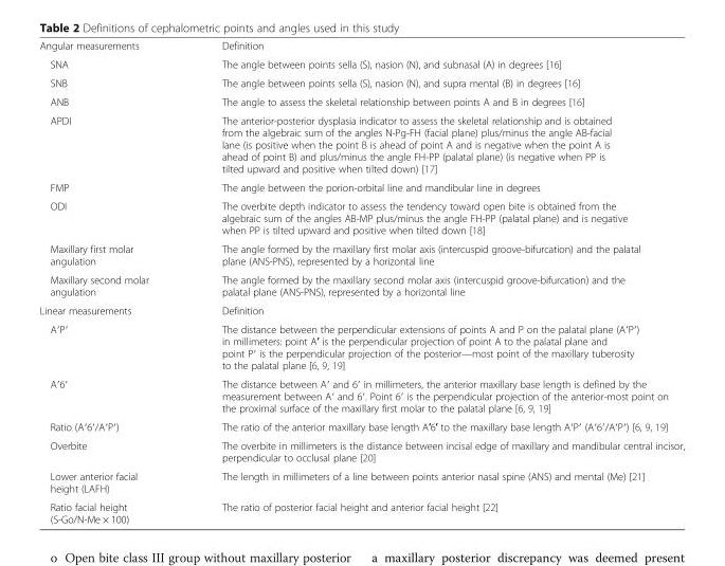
<table><tbody><tr><td>Angular measurements</td><td>Definition</td></tr><tr><td>SNA</td><td>The angle between points sella (S), nasion (N), and subnasal (A) in degrees [16]</td></tr><tr><td>SNB</td><td>The angle between points sella (S), nasion (N), and supra mental (B) in degrees [16]</td></tr><tr><td>ANB</td><td>The angle to assess the skeletal relationship between points A and B in degrees [16]</td></tr><tr><td>APDI</td><td>The anterior-posterior dysplasia indicator to assess the skeletal relationship and is obtained from the algebraic sum of the angles N-Pg-FH (facial plane) plus/minus the angle AB-facial lane (is positive when the point B is ahead of point A and is negative when the point A is ahead of point B) and plus/minus the angle FH-PP (palatal plane) (is negative when PP is tilted upward and positive when tilted down) [17]</td></tr><tr><td>FMP</td><td>The angle between the porion-orbital line and mandibular line in degrees</td></tr><tr><td>ODI</td><td>The overbite depth indicator to assess the tendency toward open bite is obtained from the algebraic sum of the angles AB-MP plus/minus the angle FH-PP (palatal plane) and is negative when PP is tilted upward and positive when tilted down [18]</td></tr><tr><td>Maxillary first molar angulation</td><td>The angle formed by the maxillary first molar axis (intercuspid groove-bifurcation) and the palatal plane (ANS-PNS), represented by a horizontal line</td></tr><tr><td>Maxillary second molar angulation</td><td>The angle formed by the maxillary second molar axis (intercuspid groove-bifurcation) and the palatal plane (ANS-PNS), represented by a horizontal line</td></tr><tr><td>Linear measurements</td><td>Definition</td></tr><tr><td>A′P′</td><td>The distance between the perpendicular extensions of points A and P on the palatal plane (A′P′) in millimeters: point A′ is the perpendicular projection of point A to the palatal plane and point P′ is the perpendicular projection of the posterior—most point of the maxillary tuberosity to the palatal plane [6, 9, 19]</td></tr><tr><td>A′6′</td><td>The distance between A′ and 6′ in millimeters, the anterior maxillary base length is defined by the measurement between A′ and 6′. Point 6′ is the perpendicular projection of the anterior-most point on the proximal surface of the maxillary first molar to the palatal plane [6, 9, 19]</td></tr><tr><td>Ratio (A′6′/A′P′)</td><td>The ratio of the anterior maxillary base length A′6′ to the maxillary base length A′P′ (A′6′/A′P′) [6, 9, 19]</td></tr><tr><td>Overbite</td><td>The overbite in millimeters is the distance between incisal edge of maxillary and mandibular central incisor, perpendicular to occlusal plane [20]</td></tr><tr><td>Lower anterior facial height (LAFH)</td><td>The length in millimeters of a line between points anterior nasal spine (ANS) and mental (Me) [21]</td></tr><tr><td>Ratio facial height (S-Go/N-Me × 100)</td><td>The ratio of posterior facial height and anterior facial height [22]</td></tr></tbody></table>